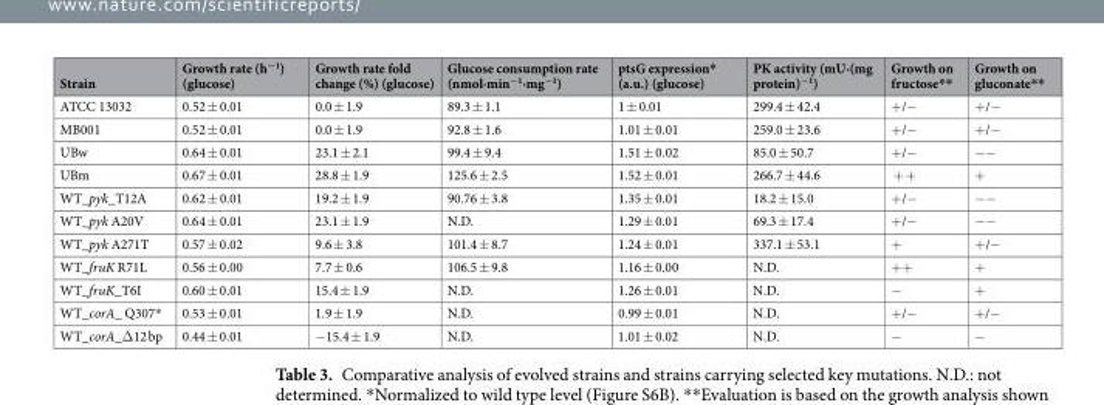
<table><thead><tr><td>Strain</td><td>Growth rate (h<sup>−1</sup>) (glucose)</td><td>Growth rate fold change (%) (glucose)</td><td>Glucose consumption rate (nmol·min<sup>−1</sup>·mg<sup>−1</sup>)</td><td>ptsG expression* (a.u.) (glucose)</td><td>PK activity (mU·(mg protein)<sup>−1</sup>)</td><td>Growth on fructose**</td><td>Growth on gluconate**</td></tr></thead><tbody><tr><td>ATCC 13032</td><td>0.52 ± 0.01</td><td>0.0 ± 1.9</td><td>89.3 ± 1.1</td><td>1 ± 0.01</td><td>299.4 ± 42.4</td><td>+/−</td><td>+/−</td></tr><tr><td>MB001</td><td>0.52 ± 0.01</td><td>0.0 ± 1.9</td><td>92.8 ± 1.6</td><td>1.01 ± 0.01</td><td>259.0 ± 23.6</td><td>+/−</td><td>+/−</td></tr><tr><td>UBw</td><td>0.64 ± 0.01</td><td>23.1 ± 2.1</td><td>99.4 ± 9.4</td><td>1.51 ± 0.02</td><td>85.0 ± 50.7</td><td>+/−</td><td>−−</td></tr><tr><td>UBm</td><td>0.67 ± 0.01</td><td>28.8 ± 1.9</td><td>125.6 ± 2.5</td><td>1.52 ± 0.01</td><td>266.7 ± 44.6</td><td>+ +</td><td>+</td></tr><tr><td>WT_pyk_T12A</td><td>0.62 ± 0.01</td><td>19.2 ± 1.9</td><td>90.76 ± 3.8</td><td>1.35 ± 0.01</td><td>18.2 ± 15.0</td><td>+/−</td><td>−−</td></tr><tr><td>WT_pyk A20V</td><td>0.64 ± 0.01</td><td>23.1 ± 1.9</td><td>N.D.</td><td>1.29 ± 0.01</td><td>69.3 ± 17.4</td><td>+/−</td><td>−−</td></tr><tr><td>WT_pyk A271T</td><td>0.57 ± 0.02</td><td>9.6 ± 3.8</td><td>101.4 ± 8.7</td><td>1.24 ± 0.01</td><td>337.1 ± 53.1</td><td>+</td><td>+/−</td></tr><tr><td>WT_fruK R71L</td><td>0.56 ± 0.00</td><td>7.7 ± 0.6</td><td>106.5 ± 9.8</td><td>1.16 ± 0.00</td><td>N.D.</td><td>++</td><td>+</td></tr><tr><td>WT_fruK_T6I</td><td>0.60 ± 0.01</td><td>15.4 ± 1.9</td><td>N.D.</td><td>1.26 ± 0.01</td><td>N.D.</td><td>−</td><td>+</td></tr><tr><td>WT_corA_ Q307*</td><td>0.53 ± 0.01</td><td>1.9 ± 1.9</td><td>N.D.</td><td>0.99 ± 0.01</td><td>N.D.</td><td>+/−</td><td>+/−</td></tr><tr><td>WT_corA_Δ12 bp</td><td>0.44 ± 0.01</td><td>−15.4 ± 1.9</td><td>N.D.</td><td>1.01 ± 0.02</td><td>N.D.</td><td>−</td><td>−</td></tr></tbody></table>